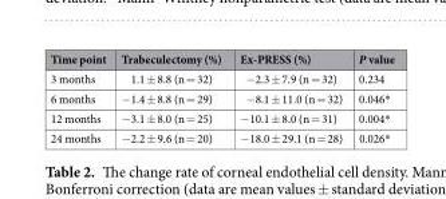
<table><thead><tr><td>Time point</td><td>Trabeculectomy (%)</td><td>Ex-PRESS (%)</td><td>P value</td></tr></thead><tbody><tr><td>3 months</td><td>1.1 ± 8.8 (n = 32)</td><td>−2.3 ± 7.9 (n = 32)</td><td>0.234</td></tr><tr><td>6 months</td><td>−1.4 ± 8.8 (n = 29)</td><td>−8.1 ± 11.0 (n = 32)</td><td>0.046*</td></tr><tr><td>12 months</td><td>−3.1 ± 8.0 (n = 25)</td><td>−10.1 ± 8.0 (n = 31)</td><td>0.004*</td></tr><tr><td>24 months</td><td>−2.2 ± 9.6 (n = 20)</td><td>−18.0 ± 29.1 (n = 28)</td><td>0.026*</td></tr></tbody></table>